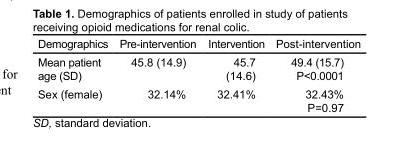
<table><thead><tr><td>Demographics</td><td>Pre-intervention</td><td>Intervention</td><td>Post-intervention</td></tr></thead><tbody><tr><td>Mean patient age (SD)</td><td>45.8 (14.9)</td><td>45.7 (14.6)</td><td>49.4 (15.7) P&lt;0.0001</td></tr><tr><td>Sex (female)</td><td>32.14%</td><td>32.41%</td><td>32.43% P=0.97</td></tr></tbody></table>